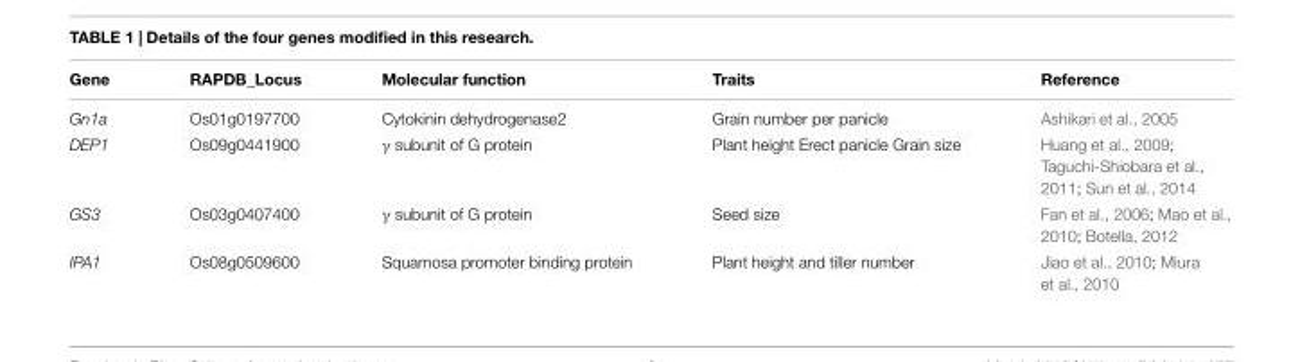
<table><thead><tr><td>Gene</td><td>RAPDB_Locus</td><td>Molecular function</td><td>Traits</td><td>Reference</td></tr></thead><tbody><tr><td>Gn1a</td><td>Os01g0197700</td><td>Cytokinin dehydrogenase2</td><td>Grain number per panicle</td><td>Ashikari et al., 2005</td></tr><tr><td>DEP1</td><td>Os09g0441900</td><td>γ subunit of G protein</td><td>Plant height Erect panicle Grain size</td><td>Huang et al., 2009; Taguchi-Shiobara et al., 2011; Sun et al., 2014</td></tr><tr><td>GS3</td><td>Os03g0407400</td><td>γ subunit of G protein</td><td>Seed size</td><td>Fan et al., 2006; Mao et al., 2010; Botella, 2012</td></tr><tr><td>IPA1</td><td>Os08g0509600</td><td>Squamosa promoter binding protein</td><td>Plant height and tiller number</td><td>Jiao et al., 2010; Miura et al., 2010</td></tr></tbody></table>